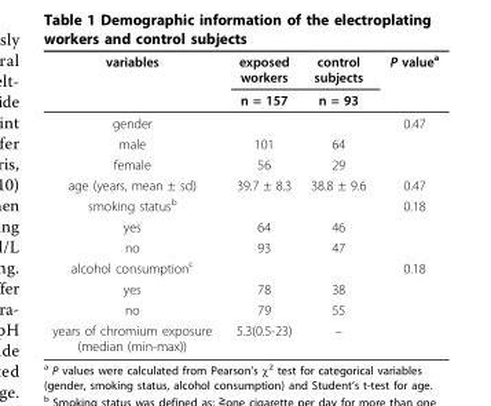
<table><thead><tr><td rowspan="2">variables</td><td rowspan="2">exposed workers n = 157</td><td rowspan="2">control subjects n = 93</td><td rowspan="2">P value<sup>a</sup></td></tr><tr></tr></thead><tbody><tr><td>gender</td><td></td><td></td><td>0.47</td></tr><tr><td>male</td><td>101</td><td>64</td><td></td></tr><tr><td>female</td><td>56</td><td>29</td><td></td></tr><tr><td>age (years, mean ± sd)</td><td>39.7 ± 8.3</td><td>38.8 ± 9.6</td><td>0.47</td></tr><tr><td>smoking status<sup>b</sup></td><td></td><td></td><td>0.18</td></tr><tr><td>yes</td><td>64</td><td>46</td><td></td></tr><tr><td>no</td><td>93</td><td>47</td><td></td></tr><tr><td>alcohol consumption<sup>c</sup></td><td></td><td></td><td>0.18</td></tr><tr><td>yes</td><td>78</td><td>38</td><td></td></tr><tr><td>no</td><td>79</td><td>55</td><td></td></tr><tr><td>years of chromium exposure (median (min-max))</td><td>5.3(0.5-23)</td><td>–</td><td></td></tr></tbody></table>